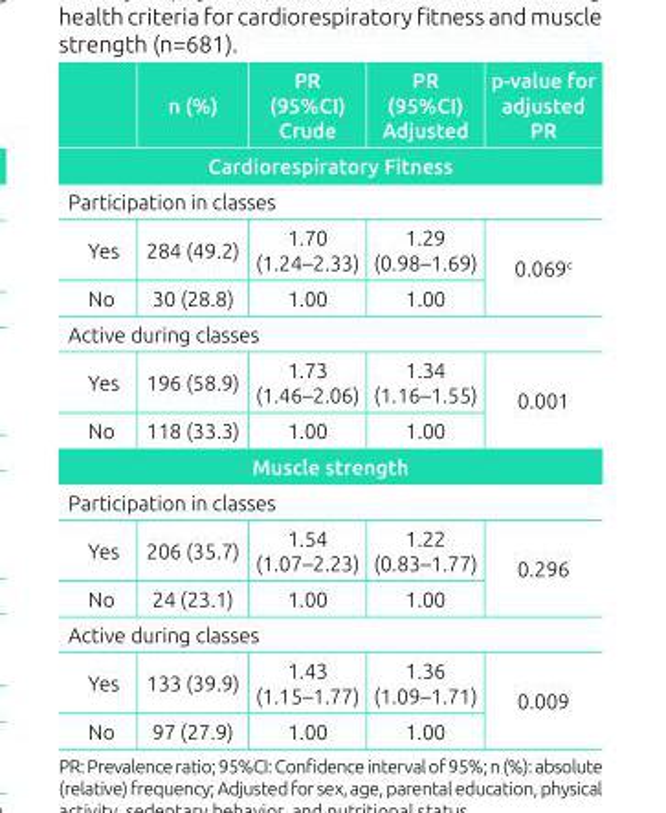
<table><thead><tr><td></td><td>n (%)</td><td>PR (95%CI) Crude</td><td>PR (95%CI) Adjusted</td><td>p-value for adjusted PR</td></tr><tr><td colspan="5">Cardiorespiratory Fitness</td></tr></thead><tbody><tr><td colspan="5">Participation in classes</td></tr><tr><td>Yes</td><td>284 (49.2)</td><td>1.70 (1.24–2.33)</td><td>1.29 (0.98–1.69)</td><td rowspan="2">0.069<sup>c</sup></td></tr><tr><td>No</td><td>30 (28.8)</td><td>1.00</td><td>1.00</td></tr><tr><td colspan="5">Active during classes</td></tr><tr><td>Yes</td><td>196 (58.9)</td><td>1.73 (1.46–2.06)</td><td>1.34 (1.16–1.55)</td><td rowspan="2">0.001</td></tr><tr><td>No</td><td>118 (33.3)</td><td>1.00</td><td>1.00</td></tr><tr><td colspan="5">Muscle strength</td></tr><tr><td colspan="5">Participation in classes</td></tr><tr><td>Yes</td><td>206 (35.7)</td><td>1.54 (1.07–2.23)</td><td>1.22 (0.83–1.77)</td><td rowspan="2">0.296</td></tr><tr><td>No</td><td>24 (23.1)</td><td>1.00</td><td>1.00</td></tr><tr><td colspan="5">Active during classes</td></tr><tr><td>Yes</td><td>133 (39.9)</td><td>1.43 (1.15–1.77)</td><td>1.36 (1.09–1.71)</td><td rowspan="2">0.009</td></tr><tr><td>No</td><td>97 (27.9)</td><td>1.00</td><td>1.00</td></tr></tbody></table>